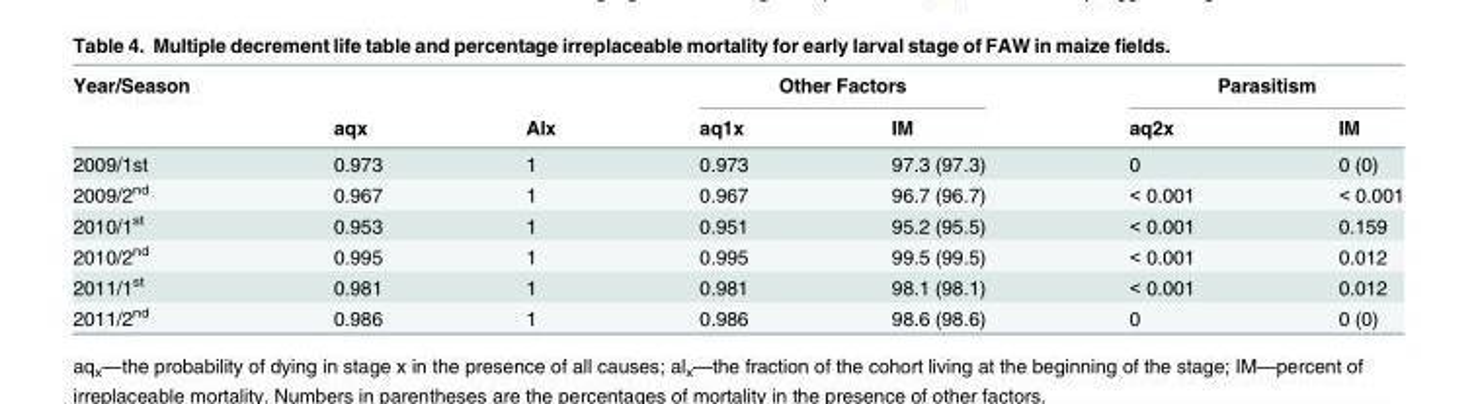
<table><thead><tr><td rowspan="2">Year/Season</td><td rowspan="2">aqx</td><td rowspan="2">Alx</td><td colspan="2">Other Factors</td><td colspan="2">Parasitism</td></tr><tr><td>aq1x</td><td>IM</td><td>aq2x</td><td>IM</td></tr></thead><tbody><tr><td>2009/1st</td><td>0.973</td><td>1</td><td>0.973</td><td>97.3 (97.3)</td><td>0</td><td>0 (0)</td></tr><tr><td>2009/2<sup>nd</sup></td><td>0.967</td><td>1</td><td>0.967</td><td>96.7 (96.7)</td><td>&lt; 0.001</td><td>&lt; 0.001</td></tr><tr><td>2010/1<sup>st</sup></td><td>0.953</td><td>1</td><td>0.951</td><td>95.2 (95.5)</td><td>&lt; 0.001</td><td>0.159</td></tr><tr><td>2010/2<sup>nd</sup></td><td>0.995</td><td>1</td><td>0.995</td><td>99.5 (99.5)</td><td>&lt; 0.001</td><td>0.012</td></tr><tr><td>2011/1<sup>st</sup></td><td>0.981</td><td>1</td><td>0.981</td><td>98.1 (98.1)</td><td>&lt; 0.001</td><td>0.012</td></tr><tr><td>2011/2<sup>nd</sup></td><td>0.986</td><td>1</td><td>0.986</td><td>98.6 (98.6)</td><td>0</td><td>0 (0)</td></tr></tbody></table>